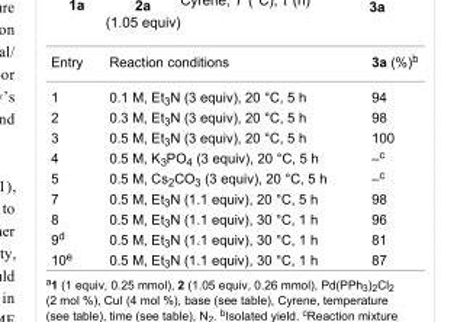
<table><tbody><tr><td>Entry</td><td>Reaction conditions</td><td>3a (%)<sup>b</sup></td></tr><tr><td>1</td><td>0.1 M, Et<sub>3</sub>N (3 equiv), 20 °C, 5 h</td><td>94</td></tr><tr><td>2</td><td>0.3 M, Et<sub>3</sub>N (3 equiv), 20 °C, 5 h</td><td>98</td></tr><tr><td>3</td><td>0.5 M, Et<sub>3</sub>N (3 equiv), 20 °C, 5 h</td><td>100</td></tr><tr><td>4</td><td>0.5 M, K<sub>3</sub>PO<sub>4</sub> (3 equiv), 20 °C, 5 h</td><td>–<sup>c</sup></td></tr><tr><td>5</td><td>0.5 M, Cs<sub>2</sub>CO<sub>3</sub> (3 equiv), 20 °C, 5 h</td><td>–<sup>c</sup></td></tr><tr><td>7</td><td>0.5 M, Et<sub>3</sub>N (1.1 equiv), 20 °C, 5 h</td><td>98</td></tr><tr><td>8</td><td>0.5 M, Et<sub>3</sub>N (1.1 equiv), 30 °C, 1 h</td><td>96</td></tr><tr><td>9<sup>d</sup></td><td>0.5 M, Et<sub>3</sub>N (1.1 equiv), 30 °C, 1 h</td><td>81</td></tr><tr><td>10<sup>e</sup></td><td>0.5 M, Et<sub>3</sub>N (1.1 equiv), 30 °C, 1 h</td><td>87</td></tr></tbody></table>